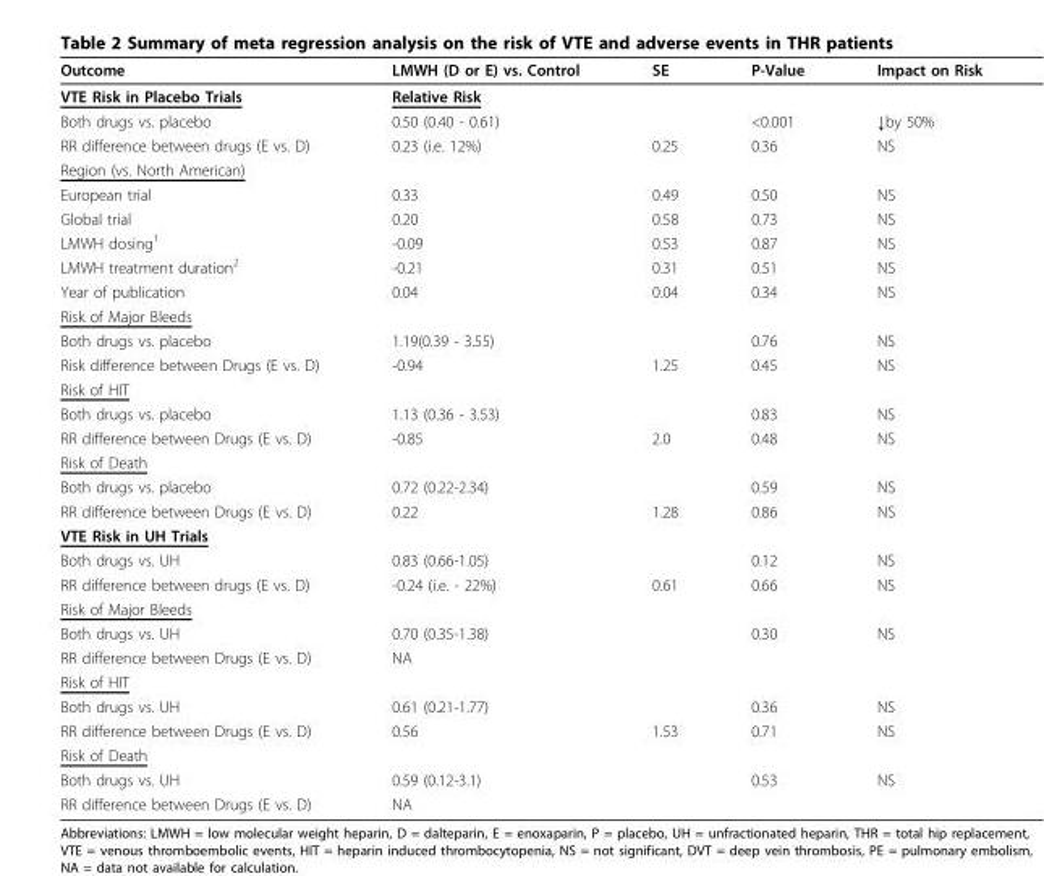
<table><thead><tr><td>Outcome</td><td>LMWH (D or E) vs. Control</td><td>SE</td><td>P-Value</td><td>Impact on Risk</td></tr></thead><tbody><tr><td>VTE Risk in Placebo Trials</td><td>Relative Risk</td><td></td><td></td><td></td></tr><tr><td>Both drugs vs. placebo</td><td>0.50 (0.40 - 0.61)</td><td></td><td>&lt;0.001</td><td>↓by 50%</td></tr><tr><td>RR difference between drugs (E vs. D)</td><td>0.23 (i.e. 12%)</td><td>0.25</td><td>0.36</td><td>NS</td></tr><tr><td colspan="5">Region (vs. North American)</td></tr><tr><td>European trial</td><td>0.33</td><td>0.49</td><td>0.50</td><td>NS</td></tr><tr><td>Global trial</td><td>0.20</td><td>0.58</td><td>0.73</td><td>NS</td></tr><tr><td>LMWH dosing<sup>1</sup></td><td>-0.09</td><td>0.53</td><td>0.87</td><td>NS</td></tr><tr><td>LMWH treatment duration<sup>2</sup></td><td>-0.21</td><td>0.31</td><td>0.51</td><td>NS</td></tr><tr><td>Year of publication</td><td>0.04</td><td>0.04</td><td>0.34</td><td>NS</td></tr><tr><td colspan="5">Risk of Major Bleeds</td></tr><tr><td>Both drugs vs. placebo</td><td>1.19(0.39 - 3.55)</td><td></td><td>0.76</td><td>NS</td></tr><tr><td>Risk difference between Drugs (E vs. D)</td><td>-0.94</td><td>1.25</td><td>0.45</td><td>NS</td></tr><tr><td colspan="5">Risk of HIT</td></tr><tr><td>Both drugs vs. placebo</td><td>1.13 (0.36 - 3.53)</td><td></td><td>0.83</td><td>NS</td></tr><tr><td>RR difference between Drugs (E vs. D)</td><td>-0.85</td><td>2.0</td><td>0.48</td><td>NS</td></tr><tr><td colspan="5">Risk of Death</td></tr><tr><td>Both drugs vs. placebo</td><td>0.72 (0.22-2.34)</td><td></td><td>0.59</td><td>NS</td></tr><tr><td>RR difference between Drugs (E vs. D)</td><td>0.22</td><td>1.28</td><td>0.86</td><td>NS</td></tr><tr><td colspan="5">VTE Risk in UH Trials</td></tr><tr><td>Both drugs vs. UH</td><td>0.83 (0.66-1.05)</td><td></td><td>0.12</td><td>NS</td></tr><tr><td>RR difference between drugs (E vs. D)</td><td>-0.24 (i.e. - 22%)</td><td>0.61</td><td>0.66</td><td>NS</td></tr><tr><td colspan="5">Risk of Major Bleeds</td></tr><tr><td>Both drugs vs. UH</td><td>0.70 (0.35-1.38)</td><td></td><td>0.30</td><td>NS</td></tr><tr><td>RR difference between Drugs (E vs. D)</td><td>NA</td><td></td><td></td><td></td></tr><tr><td colspan="5">Risk of HIT</td></tr><tr><td>Both drugs vs. UH</td><td>0.61 (0.21-1.77)</td><td></td><td>0.36</td><td>NS</td></tr><tr><td>RR difference between Drugs (E vs. D)</td><td>0.56</td><td>1.53</td><td>0.71</td><td>NS</td></tr><tr><td colspan="5">Risk of Death</td></tr><tr><td>Both drugs vs. UH</td><td>0.59 (0.12-3.1)</td><td></td><td>0.53</td><td>NS</td></tr><tr><td>RR difference between Drugs (E vs. D)</td><td>NA</td><td></td><td></td><td></td></tr></tbody></table>